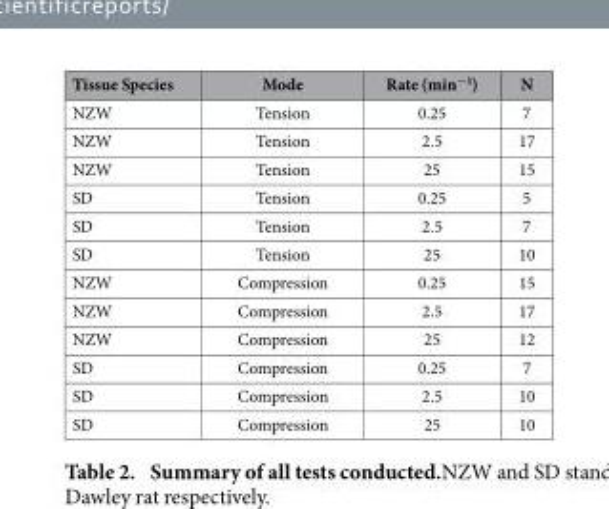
<table><thead><tr><td>Tissue Species</td><td>Mode</td><td>Rate (min<sup>−1</sup>)</td><td>N</td></tr></thead><tbody><tr><td>NZW</td><td>Tension</td><td>0.25</td><td>7</td></tr><tr><td>NZW</td><td>Tension</td><td>2.5</td><td>17</td></tr><tr><td>NZW</td><td>Tension</td><td>25</td><td>15</td></tr><tr><td>SD</td><td>Tension</td><td>0.25</td><td>5</td></tr><tr><td>SD</td><td>Tension</td><td>2.5</td><td>7</td></tr><tr><td>SD</td><td>Tension</td><td>25</td><td>10</td></tr><tr><td>NZW</td><td>Compression</td><td>0.25</td><td>15</td></tr><tr><td>NZW</td><td>Compression</td><td>2.5</td><td>17</td></tr><tr><td>NZW</td><td>Compression</td><td>25</td><td>12</td></tr><tr><td>SD</td><td>Compression</td><td>0.25</td><td>7</td></tr><tr><td>SD</td><td>Compression</td><td>2.5</td><td>10</td></tr><tr><td>SD</td><td>Compression</td><td>25</td><td>10</td></tr></tbody></table>